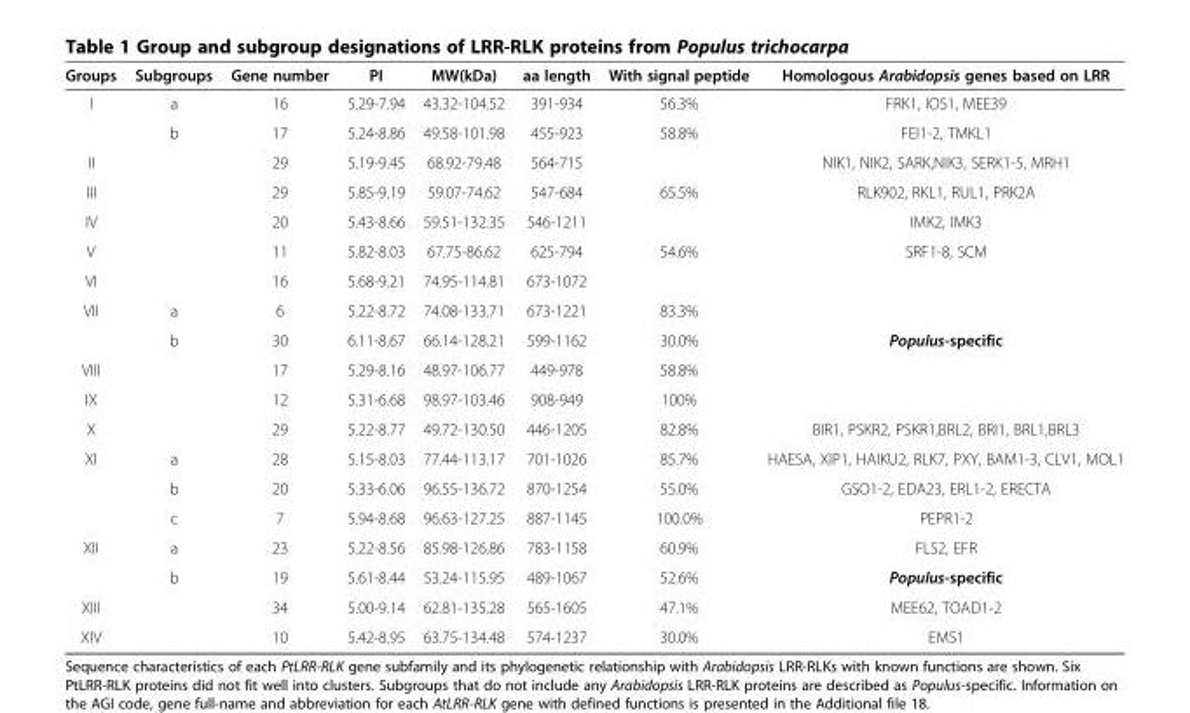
<table><thead><tr><td>Groups</td><td>Subgroups</td><td>Gene number</td><td>PI</td><td>MW(kDa)</td><td>aa length</td><td>With signal peptide</td><td>Homologous Arabidopsis genes based on LRR</td></tr></thead><tbody><tr><td rowspan="2">I</td><td>a</td><td>16</td><td>5.29-7.94</td><td>43.32-104.52</td><td>391-934</td><td>56.3%</td><td>FRK1, IOS1, MEE39</td></tr><tr><td>b</td><td>17</td><td>5.24-8.86</td><td>49.58-101.98</td><td>455-923</td><td>58.8%</td><td>FEI1-2, TMKL1</td></tr><tr><td>II</td><td></td><td>29</td><td>5.19-9.45</td><td>68.92-79.48</td><td>564-715</td><td></td><td>NIK1, NIK2, SARK,NIK3, SERK1-5, MRH1</td></tr><tr><td>III</td><td></td><td>29</td><td>5.85-9.19</td><td>59.07-74.62</td><td>547-684</td><td>65.5%</td><td>RLK902, RKL1, RUL1, PRK2A</td></tr><tr><td>IV</td><td></td><td>20</td><td>5.43-8.66</td><td>59.51-132.35</td><td>546-1211</td><td></td><td>IMK2, IMK3</td></tr><tr><td>V</td><td></td><td>11</td><td>5.82-8.03</td><td>67.75-86.62</td><td>625-794</td><td>54.6%</td><td>SRF1-8, SCM</td></tr><tr><td>VI</td><td></td><td>16</td><td>5.68-9.21</td><td>74.95-114.81</td><td>673-1072</td><td></td><td></td></tr><tr><td rowspan="2">VII</td><td>a</td><td>6</td><td>5.22-8.72</td><td>74.08-133.71</td><td>673-1221</td><td>83.3%</td><td></td></tr><tr><td>b</td><td>30</td><td>6.11-8.67</td><td>66.14-128.21</td><td>599-1162</td><td>30.0%</td><td>Populus-specific</td></tr><tr><td>VIII</td><td></td><td>17</td><td>5.29-8.16</td><td>48.97-106.77</td><td>449-978</td><td>58.8%</td><td></td></tr><tr><td>IX</td><td></td><td>12</td><td>5.31-6.68</td><td>98.97-103.46</td><td>908-949</td><td>100%</td><td></td></tr><tr><td>X</td><td></td><td>29</td><td>5.22-8.77</td><td>49.72-130.50</td><td>446-1205</td><td>82.8%</td><td>BIR1, PSKR2, PSKR1,BRL2, BRI1, BRL1,BRL3</td></tr><tr><td rowspan="3">XI</td><td>a</td><td>28</td><td>5.15-8.03</td><td>77.44-113.17</td><td>701-1026</td><td>85.7%</td><td>HAESA, XIP1, HAIKU2, RLK7, PXY, BAM1-3, CLV1, MOL1</td></tr><tr><td>b</td><td>20</td><td>5.33-6.06</td><td>96.55-136.72</td><td>870-1254</td><td>55.0%</td><td>GSO1-2, EDA23, ERL1-2, ERECTA</td></tr><tr><td>c</td><td>7</td><td>5.94-8.68</td><td>96.63-127.25</td><td>887-1145</td><td>100.0%</td><td>PEPR1-2</td></tr><tr><td rowspan="2">XII</td><td>a</td><td>23</td><td>5.22-8.56</td><td>85.98-126.86</td><td>783-1158</td><td>60.9%</td><td>FLS2, EFR</td></tr><tr><td>b</td><td>19</td><td>5.61-8.44</td><td>53.24-115.95</td><td>489-1067</td><td>52.6%</td><td>Populus-specific</td></tr><tr><td>XIII</td><td></td><td>34</td><td>5.00-9.14</td><td>62.81-135.28</td><td>565-1605</td><td>47.1%</td><td>MEE62, TOAD1-2</td></tr><tr><td>XIV</td><td></td><td>10</td><td>5.42-8.95</td><td>63.75-134.48</td><td>574-1237</td><td>30.0%</td><td>EMS1</td></tr></tbody></table>